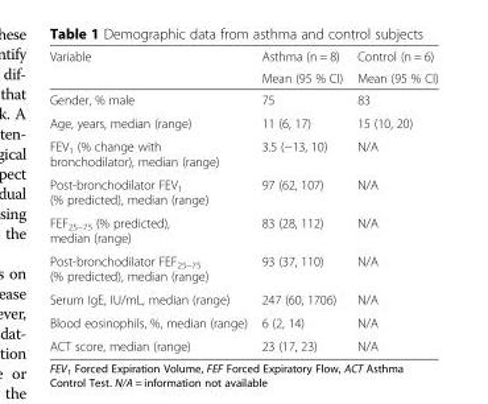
<table><thead><tr><td rowspan="2">Variable</td><td rowspan="2">Asthma (n = 8) Mean (95 % CI)</td><td rowspan="2">Control (n = 6) Mean (95 % CI)</td></tr><tr></tr></thead><tbody><tr><td>Gender, % male</td><td>75</td><td>83</td></tr><tr><td>Age, years, median (range)</td><td>11 (6, 17)</td><td>15 (10, 20)</td></tr><tr><td>FEV<sub>1</sub> (% change with bronchodilator), median (range)</td><td>3.5 (−13, 10)</td><td>N/A</td></tr><tr><td>Post-bronchodilator FEV<sub>1</sub> (% predicted), median (range)</td><td>97 (62, 107)</td><td>N/A</td></tr><tr><td>FEF<sub>25–75</sub> (% predicted), median (range)</td><td>83 (28, 112)</td><td>N/A</td></tr><tr><td>Post-bronchodilator FEF<sub>25–75</sub> (% predicted), median (range)</td><td>93 (37, 110)</td><td>N/A</td></tr><tr><td>Serum IgE, IU/mL, median (range)</td><td>247 (60, 1706)</td><td>N/A</td></tr><tr><td>Blood eosinophils, %, median (range)</td><td>6 (2, 14)</td><td>N/A</td></tr><tr><td>ACT score, median (range)</td><td>23 (17, 23)</td><td>N/A</td></tr></tbody></table>